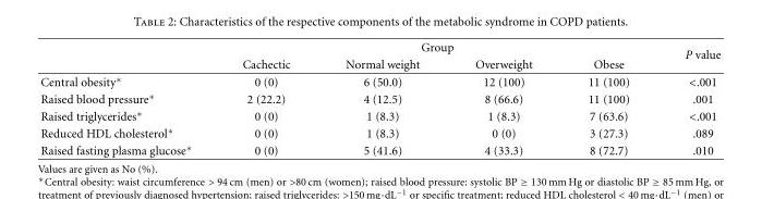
<table><thead><tr><td rowspan="2"></td><td colspan="4">Group</td><td rowspan="2">P value</td></tr><tr><td>Cachectic</td><td>Normal weight</td><td>Overweight</td><td>Obese</td></tr></thead><tbody><tr><td>Central obesity∗</td><td>0 (0)</td><td>6 (50.0)</td><td>12 (100)</td><td>11 (100)</td><td>&lt;.001</td></tr><tr><td>Raised blood pressure∗</td><td>2 (22.2)</td><td>4 (12.5)</td><td>8 (66.6)</td><td>11 (100)</td><td>.001</td></tr><tr><td>Raised triglycerides∗</td><td>0 (0)</td><td>1 (8.3)</td><td>1 (8.3)</td><td>7 (63.6)</td><td>&lt;.001</td></tr><tr><td>Reduced HDL cholesterol∗</td><td>0 (0)</td><td>1 (8.3)</td><td>0 (0)</td><td>3 (27.3)</td><td>.089</td></tr><tr><td>Raised fasting plasma glucose∗</td><td>0 (0)</td><td>5 (41.6)</td><td>4 (33.3)</td><td>8 (72.7)</td><td>.010</td></tr></tbody></table>